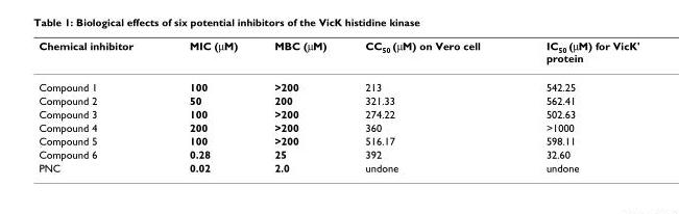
<table><thead><tr><td>Chemical inhibitor</td><td>MIC (μM)</td><td>MBC (μM)</td><td>CC<sub>50</sub> (μM) on Vero cell</td><td>IC<sub>50</sub> (μM) for VicK&#x27; protein</td></tr></thead><tbody><tr><td>Compound 1</td><td>100</td><td>&gt;200</td><td>213</td><td>542.25</td></tr><tr><td>Compound 2</td><td>50</td><td>200</td><td>321.33</td><td>562.41</td></tr><tr><td>Compound 3</td><td>100</td><td>&gt;200</td><td>274.22</td><td>502.63</td></tr><tr><td>Compound 4</td><td>200</td><td>&gt;200</td><td>360</td><td>&gt;1000</td></tr><tr><td>Compound 5</td><td>100</td><td>&gt;200</td><td>516.17</td><td>598.11</td></tr><tr><td>Compound 6</td><td>0.28</td><td>25</td><td>392</td><td>32.60</td></tr><tr><td>PNC</td><td>0.02</td><td>2.0</td><td>undone</td><td>undone</td></tr></tbody></table>